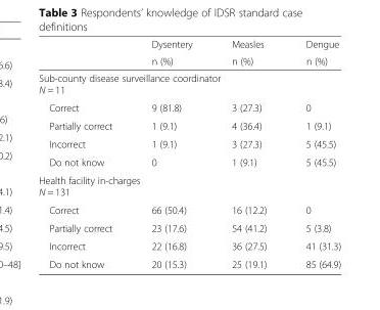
<table><thead><tr><td rowspan="2"></td><td rowspan="2">Dysentery n (%)</td><td rowspan="2">Measles n (%)</td><td rowspan="2">Dengue n (%)</td></tr><tr></tr></thead><tbody><tr><td colspan="4">Sub-county disease surveillance coordinator N = 11</td></tr><tr><td>Correct</td><td>9 (81.8)</td><td>3 (27.3)</td><td>0</td></tr><tr><td>Partially correct</td><td>1 (9.1)</td><td>4 (36.4)</td><td>1 (9.1)</td></tr><tr><td>Incorrect</td><td>1 (9.1)</td><td>3 (27.3)</td><td>5 (45.5)</td></tr><tr><td>Do not know</td><td>0</td><td>1 (9.1)</td><td>5 (45.5)</td></tr><tr><td colspan="4">Health facility in-charges N = 131</td></tr><tr><td>Correct</td><td>66 (50.4)</td><td>16 (12.2)</td><td>0</td></tr><tr><td>Partially correct</td><td>23 (17.6)</td><td>54 (41.2)</td><td>5 (3.8)</td></tr><tr><td>Incorrect</td><td>22 (16.8)</td><td>36 (27.5)</td><td>41 (31.3)</td></tr><tr><td>Do not know</td><td>20 (15.3)</td><td>25 (19.1)</td><td>85 (64.9)</td></tr></tbody></table>